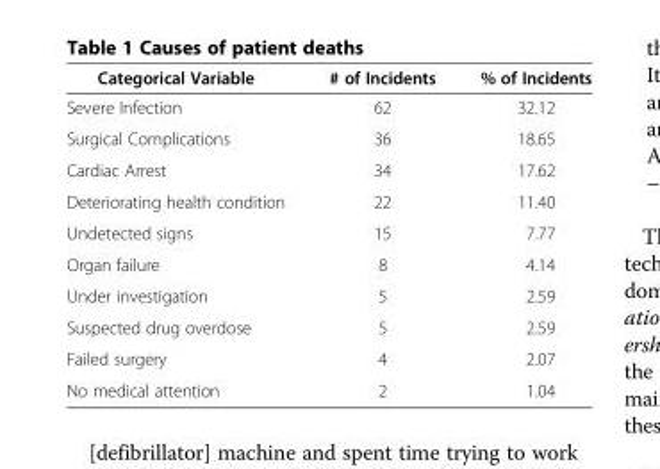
<table><thead><tr><td>Categorical Variable</td><td># of Incidents</td><td>% of Incidents</td></tr></thead><tbody><tr><td>Severe Infection</td><td>62</td><td>32.12</td></tr><tr><td>Surgical Complications</td><td>36</td><td>18.65</td></tr><tr><td>Cardiac Arrest</td><td>34</td><td>17.62</td></tr><tr><td>Deteriorating health condition</td><td>22</td><td>11.40</td></tr><tr><td>Undetected signs</td><td>15</td><td>7.77</td></tr><tr><td>Organ failure</td><td>8</td><td>4.14</td></tr><tr><td>Under investigation</td><td>5</td><td>2.59</td></tr><tr><td>Suspected drug overdose</td><td>5</td><td>2.59</td></tr><tr><td>Failed surgery</td><td>4</td><td>2.07</td></tr><tr><td>No medical attention</td><td>2</td><td>1.04</td></tr></tbody></table>